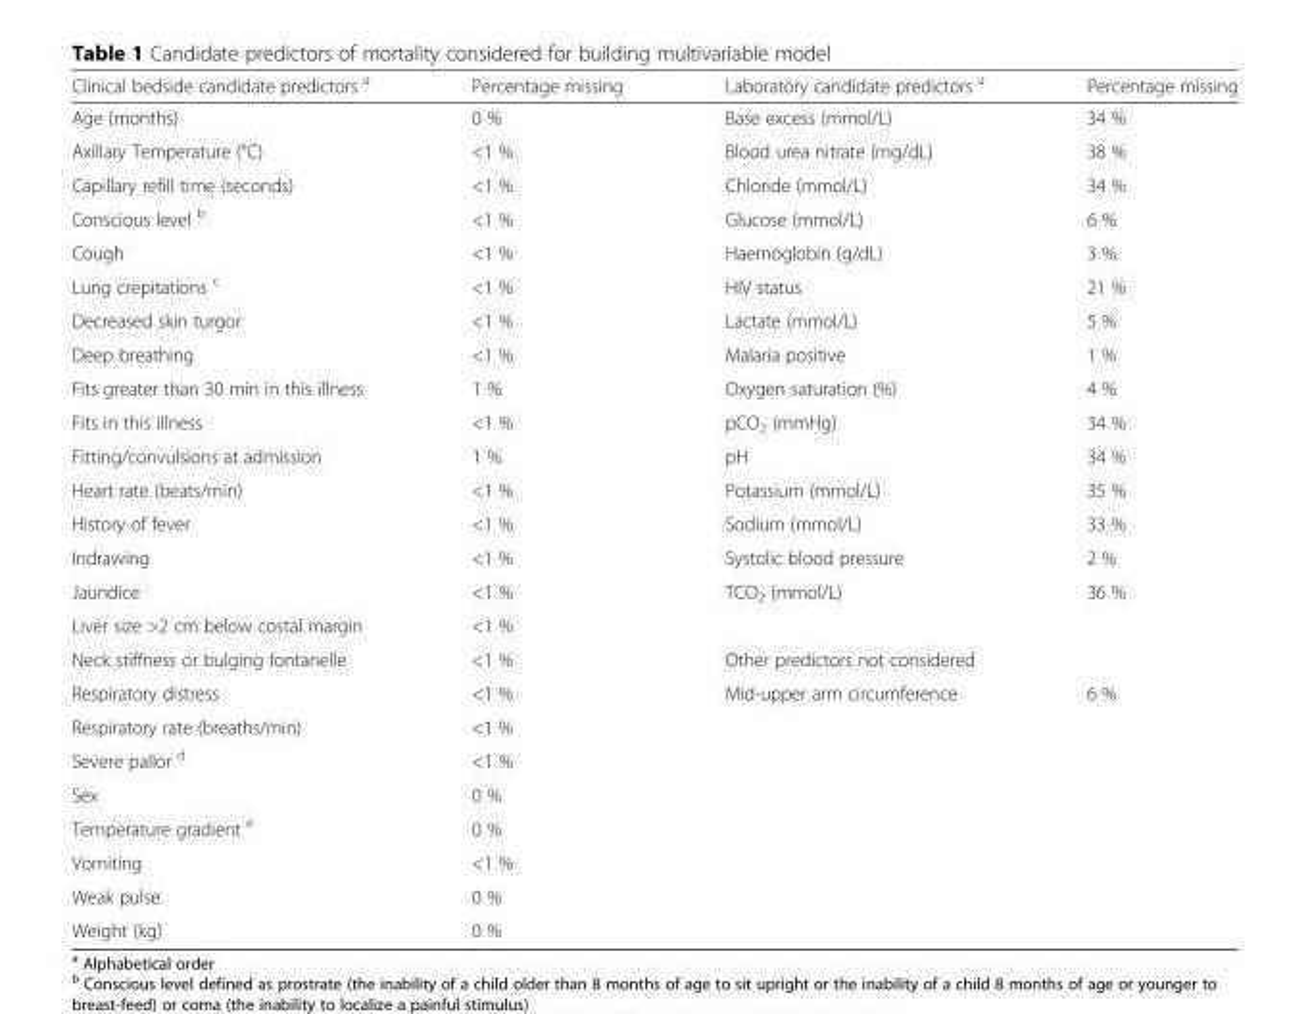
<table><thead><tr><td>Clinical bedside candidate predictors <sup>a</sup></td><td>Percentage missing</td><td>Laboratory candidate predictors <sup>a</sup></td><td>Percentage missing</td></tr></thead><tbody><tr><td>Age (months)</td><td>0 %</td><td>Base excess (mmol/L)</td><td>34 %</td></tr><tr><td>Axillary Temperature (°C)</td><td>&lt;1 %</td><td>Blood urea nitrate (mg/dL)</td><td>38 %</td></tr><tr><td>Capillary refill time (seconds)</td><td>&lt;1 %</td><td>Chloride (mmol/L)</td><td>34 %</td></tr><tr><td>Conscious level <sup>b</sup></td><td>&lt;1 %</td><td>Glucose (mmol/L)</td><td>6 %</td></tr><tr><td>Cough</td><td>&lt;1 %</td><td>Haemoglobin (g/dL)</td><td>3 %</td></tr><tr><td>Lung crepitations <sup>c</sup></td><td>&lt;1 %</td><td>HIV status</td><td>21 %</td></tr><tr><td>Decreased skin turgor</td><td>&lt;1 %</td><td>Lactate (mmol/L)</td><td>5 %</td></tr><tr><td>Deep breathing</td><td>&lt;1 %</td><td>Malaria positive</td><td>1 %</td></tr><tr><td>Fits greater than 30 min in this illness</td><td>1 %</td><td>Oxygen saturation (%)</td><td>4 %</td></tr><tr><td>Fits in this illness</td><td>&lt;1 %</td><td>pCO<sub>2</sub> (mmHg)</td><td>34 %</td></tr><tr><td>Fitting/convulsions at admission</td><td>1 %</td><td>pH</td><td>34 %</td></tr><tr><td>Heart rate (beats/min)</td><td>&lt;1 %</td><td>Potassium (mmol/L)</td><td>35 %</td></tr><tr><td>History of fever</td><td>&lt;1 %</td><td>Sodium (mmol/L)</td><td>33 %</td></tr><tr><td>Indrawing</td><td>&lt;1 %</td><td>Systolic blood pressure</td><td>2 %</td></tr><tr><td>Jaundice</td><td>&lt;1 %</td><td>TCO<sub>2</sub> (mmol/L)</td><td>36 %</td></tr><tr><td>Liver size &gt;2 cm below costal margin</td><td>&lt;1 %</td><td></td><td></td></tr><tr><td>Neck stiffness or bulging fontanelle</td><td>&lt;1 %</td><td>Other predictors not considered</td><td></td></tr><tr><td>Respiratory distress</td><td>&lt;1 %</td><td>Mid-upper arm circumference</td><td>6 %</td></tr><tr><td>Respiratory rate (breaths/min)</td><td>&lt;1 %</td><td></td><td></td></tr><tr><td>Severe pallor <sup>d</sup></td><td>&lt;1 %</td><td></td><td></td></tr><tr><td>Sex</td><td>0 %</td><td></td><td></td></tr><tr><td>Temperature gradient <sup>e</sup></td><td>0 %</td><td></td><td></td></tr><tr><td>Vomiting</td><td>&lt;1 %</td><td></td><td></td></tr><tr><td>Weak pulse</td><td>0 %</td><td></td><td></td></tr><tr><td>Weight (kg)</td><td>0 %</td><td></td><td></td></tr></tbody></table>